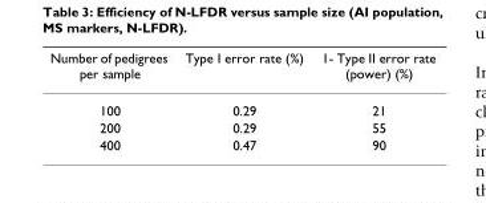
<table><thead><tr><td>Number of pedigrees per sample</td><td>Type I error rate (%)</td><td>1- Type II error rate (power) (%)</td></tr></thead><tbody><tr><td>100</td><td>0.29</td><td>21</td></tr><tr><td>200</td><td>0.29</td><td>55</td></tr><tr><td>400</td><td>0.47</td><td>90</td></tr></tbody></table>